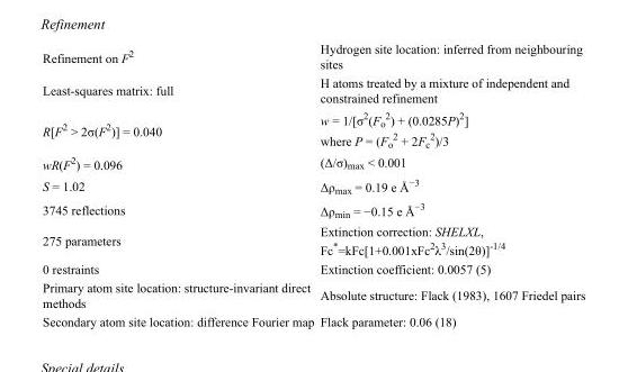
<table><tbody><tr><td>Refinement on F<sup>2</sup></td><td>Hydrogen site location: inferred from neighbouring sites</td></tr><tr><td>Least-squares matrix: full</td><td>H atoms treated by a mixture of independent and constrained refinement</td></tr><tr><td>R[F<sup>2</sup> &gt; 2σ(F<sup>2</sup>)] = 0.040</td><td>w = 1/[σ<sup>2</sup>(F<sub>o</sub> <sup>2</sup>) + (0.0285P)<sup>2</sup>] where P = (F<sub>o</sub> <sup>2</sup> + 2F<sub>c</sub> <sup>2</sup>)/3</td></tr><tr><td>wR(F<sup>2</sup>) = 0.096</td><td>(Δ/σ)<sub>max</sub> &lt; 0.001</td></tr><tr><td>S = 1.02</td><td>Δρ<sub>max</sub> = 0.19 e Å<sup>−3</sup></td></tr><tr><td>3745 reflections</td><td>Δρ<sub>min</sub> = −0.15 e Å<sup>−3</sup></td></tr><tr><td>275 parameters</td><td>Extinction correction: SHELXL, Fc*=kFc[1+0.001xFc<sup>2</sup>λ<sup>3</sup>/sin(2θ)]<sup>-1/4</sup></td></tr><tr><td>0 restraints</td><td>Extinction coefficient: 0.0057 (5)</td></tr><tr><td>Primary atom site location: structure-invariant direct methods</td><td>Absolute structure: Flack (1983), 1607 Friedel pairs</td></tr><tr><td>Secondary atom site location: difference Fourier map</td><td>Flack parameter: 0.06 (18)</td></tr></tbody></table>